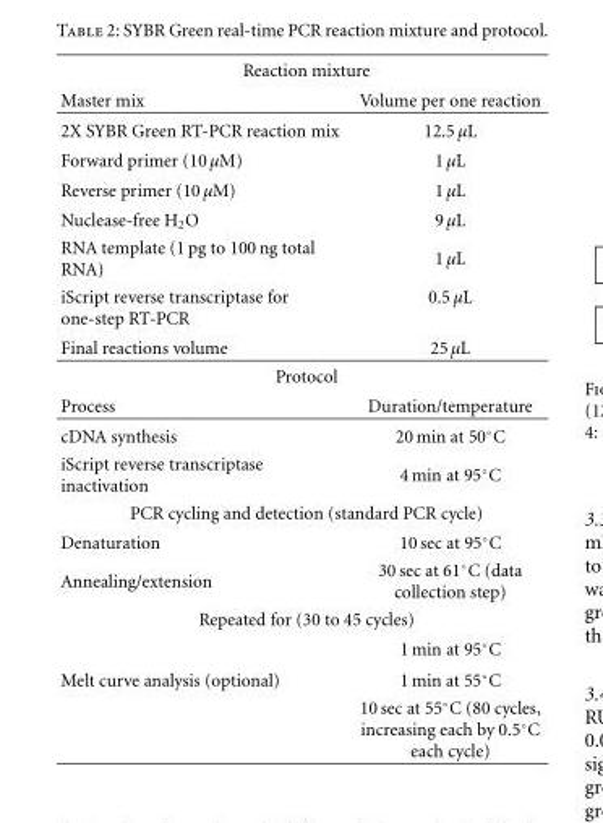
<table><thead><tr><td colspan="2">Reaction mixture</td></tr><tr><td>Master mix</td><td>Volume per one reaction</td></tr></thead><tbody><tr><td>2X SYBR Green RT-PCR reaction mix</td><td>12.5 μL</td></tr><tr><td>Forward primer (10 μM)</td><td>1 μL</td></tr><tr><td>Reverse primer (10 μM)</td><td>1 μL</td></tr><tr><td>Nuclease-free H<sub>2</sub>O</td><td>9 μL</td></tr><tr><td>RNA template (1 pg to 100 ng total RNA)</td><td>1 μL</td></tr><tr><td>iScript reverse transcriptase for one-step RT-PCR</td><td>0.5 μL</td></tr><tr><td>Final reactions volume</td><td>25 μL</td></tr><tr><td colspan="2">Protocol</td></tr><tr><td>Process</td><td>Duration/temperature</td></tr><tr><td>cDNA synthesis</td><td>20 min at 50◦C</td></tr><tr><td>iScript reverse transcriptase inactivation</td><td>4 min at 95◦C</td></tr><tr><td colspan="2">PCR cycling and detection (standard PCR cycle)</td></tr><tr><td>Denaturation</td><td>10 sec at 95◦C</td></tr><tr><td>Annealing/extension</td><td>30 sec at 61◦C (data collection step)</td></tr><tr><td colspan="2">Repeated for (30 to 45 cycles)</td></tr><tr><td></td><td>1 min at 95◦C</td></tr><tr><td rowspan="2">Melt curve analysis (optional)</td><td>1 min at 55◦C</td></tr><tr><td>10 sec at 55◦C (80 cycles, increasing each by 0.5◦C each cycle)</td></tr></tbody></table>